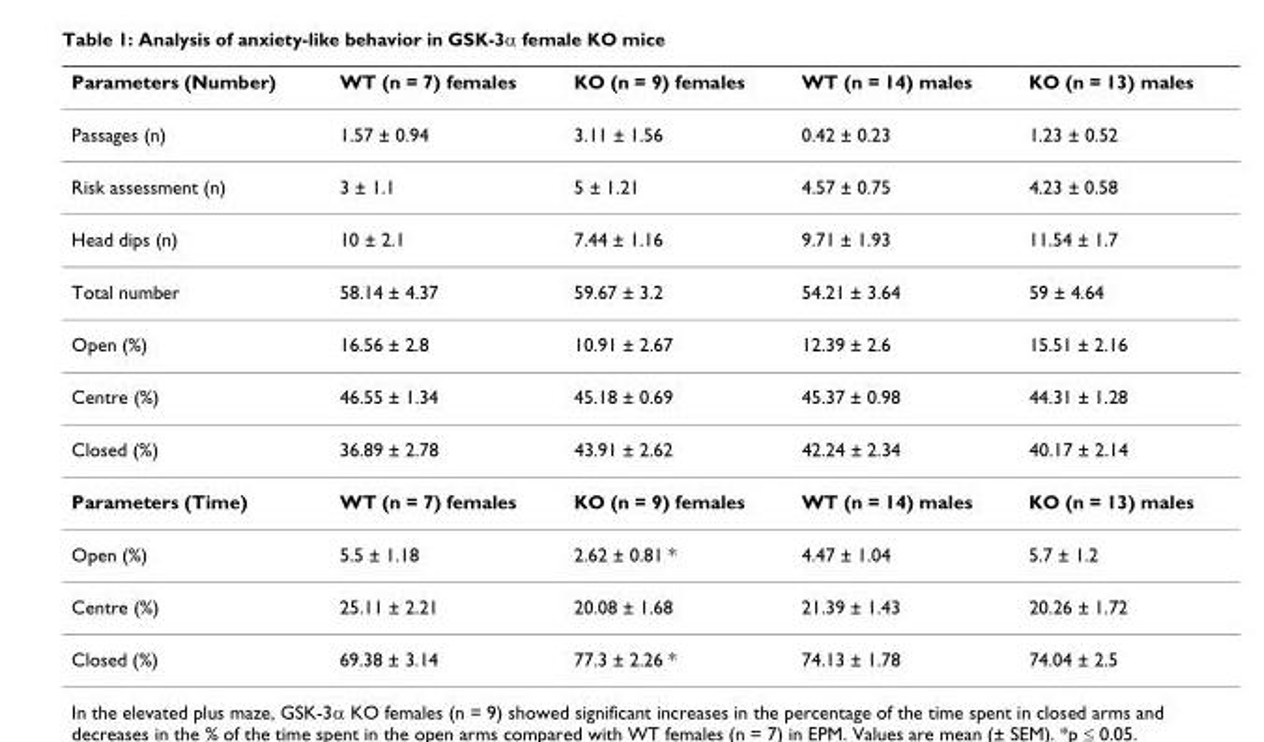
<table><thead><tr><td>Parameters (Number)</td><td>WT (n = 7) females</td><td>KO (n = 9) females</td><td>WT (n = 14) males</td><td>KO (n = 13) males</td></tr></thead><tbody><tr><td>Passages (n)</td><td>1.57 ± 0.94</td><td>3.11 ± 1.56</td><td>0.42 ± 0.23</td><td>1.23 ± 0.52</td></tr><tr><td>Risk assessment (n)</td><td>3 ± 1.1</td><td>5 ± 1.21</td><td>4.57 ± 0.75</td><td>4.23 ± 0.58</td></tr><tr><td>Head dips (n)</td><td>10 ± 2.1</td><td>7.44 ± 1.16</td><td>9.71 ± 1.93</td><td>11.54 ± 1.7</td></tr><tr><td>Total number</td><td>58.14 ± 4.37</td><td>59.67 ± 3.2</td><td>54.21 ± 3.64</td><td>59 ± 4.64</td></tr><tr><td>Open (%)</td><td>16.56 ± 2.8</td><td>10.91 ± 2.67</td><td>12.39 ± 2.6</td><td>15.51 ± 2.16</td></tr><tr><td>Centre (%)</td><td>46.55 ± 1.34</td><td>45.18 ± 0.69</td><td>45.37 ± 0.98</td><td>44.31 ± 1.28</td></tr><tr><td>Closed (%)</td><td>36.89 ± 2.78</td><td>43.91 ± 2.62</td><td>42.24 ± 2.34</td><td>40.17 ± 2.14</td></tr><tr><td>Parameters (Time)</td><td>WT (n = 7) females</td><td>KO (n = 9) females</td><td>WT (n = 14) males</td><td>KO (n = 13) males</td></tr><tr><td>Open (%)</td><td>5.5 ± 1.18</td><td>2.62 ± 0.81 *</td><td>4.47 ± 1.04</td><td>5.7 ± 1.2</td></tr><tr><td>Centre (%)</td><td>25.11 ± 2.21</td><td>20.08 ± 1.68</td><td>21.39 ± 1.43</td><td>20.26 ± 1.72</td></tr><tr><td>Closed (%)</td><td>69.38 ± 3.14</td><td>77.3 ± 2.26 *</td><td>74.13 ± 1.78</td><td>74.04 ± 2.5</td></tr></tbody></table>